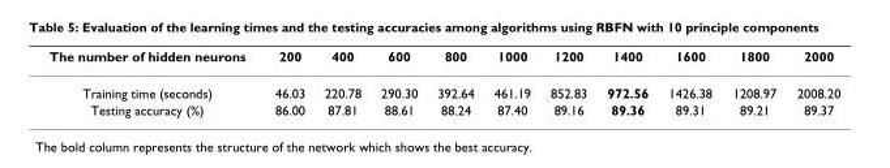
<table><thead><tr><td>The number of hidden neurons</td><td>200</td><td>400</td><td>600</td><td>800</td><td>1000</td><td>1200</td><td>1400</td><td>1600</td><td>1800</td><td>2000</td></tr></thead><tbody><tr><td>Training time (seconds)</td><td>46.03</td><td>220.78</td><td>290.30</td><td>392.64</td><td>461.19</td><td>852.83</td><td>972.56</td><td>1426.38</td><td>1208.97</td><td>2008.20</td></tr><tr><td>Testing accuracy (%)</td><td>86.00</td><td>87.81</td><td>88.61</td><td>88.24</td><td>87.40</td><td>89.16</td><td>89.36</td><td>89.31</td><td>89.21</td><td>89.37</td></tr></tbody></table>